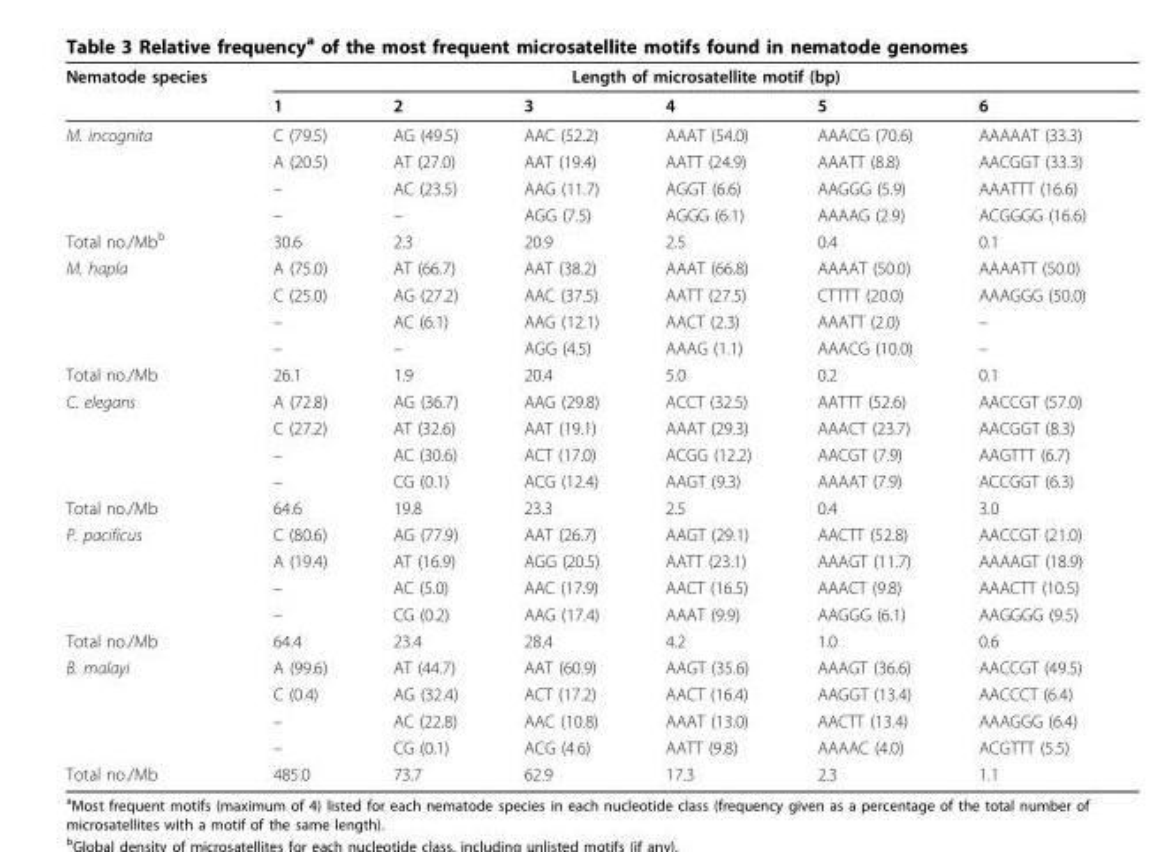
<table><thead><tr><td rowspan="2">Nematode species</td><td colspan="6">Length of microsatellite motif (bp)</td></tr><tr><td>1</td><td>2</td><td>3</td><td>4</td><td>5</td><td>6</td></tr></thead><tbody><tr><td rowspan="4">M. incognita</td><td>C (79.5)</td><td>AG (49.5)</td><td>AAC (52.2)</td><td>AAAT (54.0)</td><td>AAACG (70.6)</td><td>AAAAAT (33.3)</td></tr><tr><td>A (20.5)</td><td>AT (27.0)</td><td>AAT (19.4)</td><td>AATT (24.9)</td><td>AAATT (8.8)</td><td>AACGGT (33.3)</td></tr><tr><td>–</td><td>AC (23.5)</td><td>AAG (11.7)</td><td>AGGT (6.6)</td><td>AAGGG (5.9)</td><td>AAATTT (16.6)</td></tr><tr><td>–</td><td>–</td><td>AGG (7.5)</td><td>AGGG (6.1)</td><td>AAAAG (2.9)</td><td>ACGGGG (16.6)</td></tr><tr><td>Total no./Mb<sup>b</sup></td><td>30.6</td><td>2.3</td><td>20.9</td><td>2.5</td><td>0.4</td><td>0.1</td></tr><tr><td rowspan="4">M. hapla</td><td>A (75.0)</td><td>AT (66.7)</td><td>AAT (38.2)</td><td>AAAT (66.8)</td><td>AAAAT (50.0)</td><td>AAAATT (50.0)</td></tr><tr><td>C (25.0)</td><td>AG (27.2)</td><td>AAC (37.5)</td><td>AATT (27.5)</td><td>CTTTT (20.0)</td><td>AAAGGG (50.0)</td></tr><tr><td>–</td><td>AC (6.1)</td><td>AAG (12.1)</td><td>AACT (2.3)</td><td>AAATT (2.0)</td><td>–</td></tr><tr><td>–</td><td>–</td><td>AGG (4.5)</td><td>AAAG (1.1)</td><td>AAACG (10.0)</td><td>–</td></tr><tr><td>Total no./Mb</td><td>26.1</td><td>1.9</td><td>20.4</td><td>5.0</td><td>0.2</td><td>0.1</td></tr><tr><td rowspan="4">C. elegans</td><td>A (72.8)</td><td>AG (36.7)</td><td>AAG (29.8)</td><td>ACCT (32.5)</td><td>AATTT (52.6)</td><td>AACCGT (57.0)</td></tr><tr><td>C (27.2)</td><td>AT (32.6)</td><td>AAT (19.1)</td><td>AAAT (29.3)</td><td>AAACT (23.7)</td><td>AACGGT (8.3)</td></tr><tr><td>–</td><td>AC (30.6)</td><td>ACT (17.0)</td><td>ACGG (12.2)</td><td>AACGT (7.9)</td><td>AAGTTT (6.7)</td></tr><tr><td>–</td><td>CG (0.1)</td><td>ACG (12.4)</td><td>AAGT (9.3)</td><td>AAAAT (7.9)</td><td>ACCGGT (6.3)</td></tr><tr><td>Total no./Mb</td><td>64.6</td><td>19.8</td><td>23.3</td><td>2.5</td><td>0.4</td><td>3.0</td></tr><tr><td rowspan="4">P. pacificus</td><td>C (80.6)</td><td>AG (77.9)</td><td>AAT (26.7)</td><td>AAGT (29.1)</td><td>AACTT (52.8)</td><td>AACCGT (21.0)</td></tr><tr><td>A (19.4)</td><td>AT (16.9)</td><td>AGG (20.5)</td><td>AATT (23.1)</td><td>AAAGT (11.7)</td><td>AAAAGT (18.9)</td></tr><tr><td>–</td><td>AC (5.0)</td><td>AAC (17.9)</td><td>AACT (16.5)</td><td>AAACT (9.8)</td><td>AAACTT (10.5)</td></tr><tr><td>–</td><td>CG (0.2)</td><td>AAG (17.4)</td><td>AAAT (9.9)</td><td>AAGGG (6.1)</td><td>AAGGGG (9.5)</td></tr><tr><td>Total no./Mb</td><td>64.4</td><td>23.4</td><td>28.4</td><td>4.2</td><td>1.0</td><td>0.6</td></tr><tr><td rowspan="4">B. malayi</td><td>A (99.6)</td><td>AT (44.7)</td><td>AAT (60.9)</td><td>AAGT (35.6)</td><td>AAAGT (36.6)</td><td>AACCGT (49.5)</td></tr><tr><td>C (0.4)</td><td>AG (32.4)</td><td>ACT (17.2)</td><td>AACT (16.4)</td><td>AAGGT (13.4)</td><td>AACCCT (6.4)</td></tr><tr><td>–</td><td>AC (22.8)</td><td>AAC (10.8)</td><td>AAAT (13.0)</td><td>AACTT (13.4)</td><td>AAAGGG (6.4)</td></tr><tr><td>–</td><td>CG (0.1)</td><td>ACG (4.6)</td><td>AATT (9.8)</td><td>AAAAC (4.0)</td><td>ACGTTT (5.5)</td></tr><tr><td>Total no./Mb</td><td>485.0</td><td>73.7</td><td>62.9</td><td>17.3</td><td>2.3</td><td>1.1</td></tr></tbody></table>